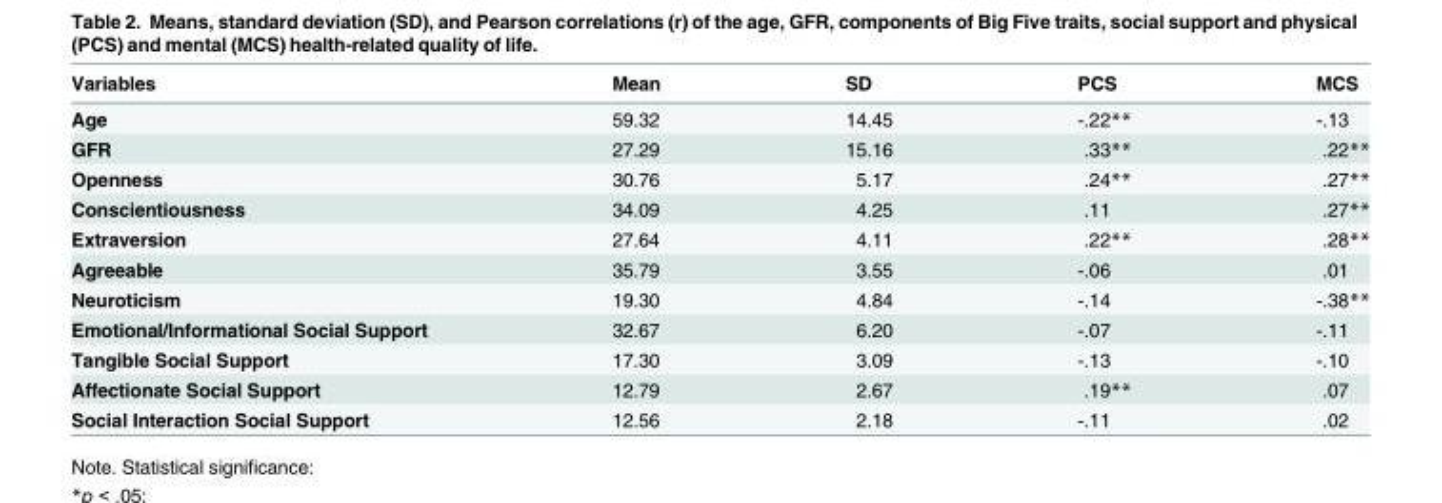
<table><thead><tr><td>Variables</td><td>Mean</td><td>SD</td><td>PCS</td><td>MCS</td></tr></thead><tbody><tr><td>Age</td><td>59.32</td><td>14.45</td><td>-.22**</td><td>-.13</td></tr><tr><td>GFR</td><td>27.29</td><td>15.16</td><td>.33**</td><td>.22**</td></tr><tr><td>Openness</td><td>30.76</td><td>5.17</td><td>.24**</td><td>.27**</td></tr><tr><td>Conscientiousness</td><td>34.09</td><td>4.25</td><td>.11</td><td>.27**</td></tr><tr><td>Extraversion</td><td>27.64</td><td>4.11</td><td>.22**</td><td>.28**</td></tr><tr><td>Agreeable</td><td>35.79</td><td>3.55</td><td>-.06</td><td>.01</td></tr><tr><td>Neuroticism</td><td>19.30</td><td>4.84</td><td>-.14</td><td>-.38**</td></tr><tr><td>Emotional/Informational Social Support</td><td>32.67</td><td>6.20</td><td>-.07</td><td>-.11</td></tr><tr><td>Tangible Social Support</td><td>17.30</td><td>3.09</td><td>-.13</td><td>-.10</td></tr><tr><td>Affectionate Social Support</td><td>12.79</td><td>2.67</td><td>.19**</td><td>.07</td></tr><tr><td>Social Interaction Social Support</td><td>12.56</td><td>2.18</td><td>-.11</td><td>.02</td></tr></tbody></table>